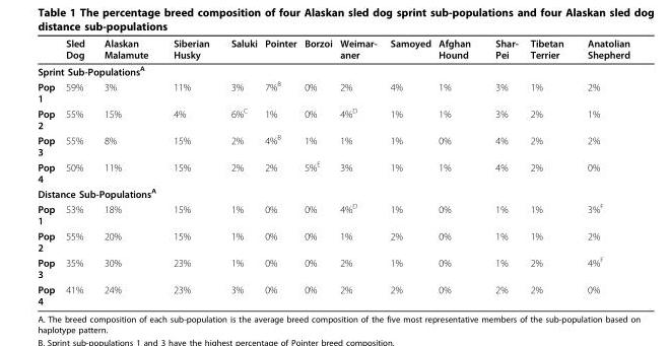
<table><thead><tr><td></td><td>Sled Dog</td><td>Alaskan Malamute</td><td>Siberian Husky</td><td>Saluki</td><td>Pointer</td><td>Borzoi</td><td>Weimar- aner</td><td>Samoyed</td><td>Afghan Hound</td><td>Shar- Pei</td><td>Tibetan Terrier</td><td>Anatolian Shepherd</td></tr></thead><tbody><tr><td colspan="13">Sprint Sub-Populations<sup>A</sup></td></tr><tr><td>Pop 1</td><td>59%</td><td>3%</td><td>11%</td><td>3%</td><td>7%<sup>B</sup></td><td>0%</td><td>2%</td><td>4%</td><td>1%</td><td>3%</td><td>1%</td><td>2%</td></tr><tr><td>Pop 2</td><td>55%</td><td>15%</td><td>4%</td><td>6%<sup>C</sup></td><td>1%</td><td>0%</td><td>4%<sup>D</sup></td><td>1%</td><td>1%</td><td>3%</td><td>2%</td><td>1%</td></tr><tr><td>Pop 3</td><td>55%</td><td>8%</td><td>15%</td><td>2%</td><td>4%<sup>B</sup></td><td>1%</td><td>1%</td><td>1%</td><td>0%</td><td>4%</td><td>2%</td><td>2%</td></tr><tr><td>Pop 4</td><td>50%</td><td>11%</td><td>15%</td><td>2%</td><td>2%</td><td>5%<sup>E</sup></td><td>3%</td><td>1%</td><td>1%</td><td>4%</td><td>2%</td><td>0%</td></tr><tr><td colspan="13">Distance Sub-Populations<sup>A</sup></td></tr><tr><td>Pop 1</td><td>53%</td><td>18%</td><td>15%</td><td>1%</td><td>0%</td><td>0%</td><td>4%<sup>D</sup></td><td>1%</td><td>0%</td><td>1%</td><td>1%</td><td>3%<sup>F</sup></td></tr><tr><td>Pop 2</td><td>55%</td><td>20%</td><td>15%</td><td>1%</td><td>0%</td><td>0%</td><td>1%</td><td>2%</td><td>0%</td><td>1%</td><td>1%</td><td>2%</td></tr><tr><td>Pop 3</td><td>35%</td><td>30%</td><td>23%</td><td>1%</td><td>0%</td><td>0%</td><td>2%</td><td>1%</td><td>0%</td><td>1%</td><td>2%</td><td>4%<sup>F</sup></td></tr><tr><td>Pop 4</td><td>41%</td><td>24%</td><td>23%</td><td>3%</td><td>0%</td><td>0%</td><td>2%</td><td>2%</td><td>0%</td><td>2%</td><td>2%</td><td>0%</td></tr></tbody></table>